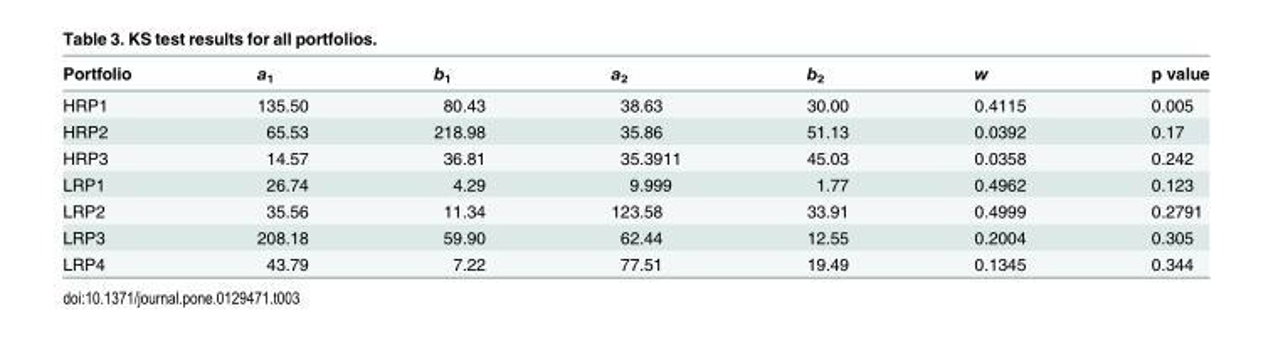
<table><thead><tr><td>Portfolio</td><td>a<sub>1</sub></td><td>b<sub>1</sub></td><td>a<sub>2</sub></td><td>b<sub>2</sub></td><td>w</td><td>p value</td></tr></thead><tbody><tr><td>HRP1</td><td>135.50</td><td>80.43</td><td>38.63</td><td>30.00</td><td>0.4115</td><td>0.005</td></tr><tr><td>HRP2</td><td>65.53</td><td>218.98</td><td>35.86</td><td>51.13</td><td>0.0392</td><td>0.17</td></tr><tr><td>HRP3</td><td>14.57</td><td>36.81</td><td>35.3911</td><td>45.03</td><td>0.0358</td><td>0.242</td></tr><tr><td>LRP1</td><td>26.74</td><td>4.29</td><td>9.999</td><td>1.77</td><td>0.4962</td><td>0.123</td></tr><tr><td>LRP2</td><td>35.56</td><td>11.34</td><td>123.58</td><td>33.91</td><td>0.4999</td><td>0.2791</td></tr><tr><td>LRP3</td><td>208.18</td><td>59.90</td><td>62.44</td><td>12.55</td><td>0.2004</td><td>0.305</td></tr><tr><td>LRP4</td><td>43.79</td><td>7.22</td><td>77.51</td><td>19.49</td><td>0.1345</td><td>0.344</td></tr></tbody></table>